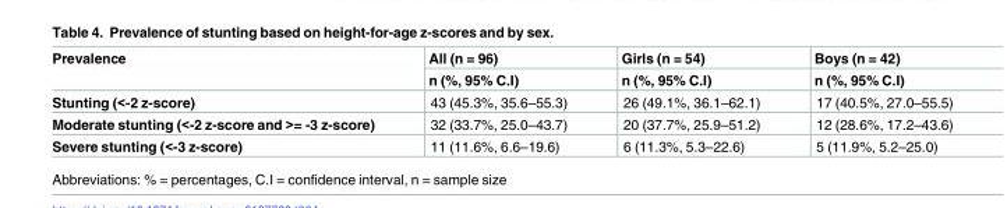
<table><thead><tr><td rowspan="2">Prevalence</td><td rowspan="2">All (n = 96) n (%, 95% C.I)</td><td rowspan="2">Girls (n = 54) n (%, 95% C.I)</td><td rowspan="2">Boys (n = 42) n (%, 95% C.I)</td></tr><tr></tr></thead><tbody><tr><td>Stunting (&lt;-2 z-score)</td><td>43 (45.3%, 35.6–55.3)</td><td>26 (49.1%, 36.1–62.1)</td><td>17 (40.5%, 27.0–55.5)</td></tr><tr><td>Moderate stunting (&lt;-2 z-score and &gt;= -3 z-score)</td><td>32 (33.7%, 25.0–43.7)</td><td>20 (37.7%, 25.9–51.2)</td><td>12 (28.6%, 17.2–43.6)</td></tr><tr><td>Severe stunting (&lt;-3 z-score)</td><td>11 (11.6%, 6.6–19.6)</td><td>6 (11.3%, 5.3–22.6)</td><td>5 (11.9%, 5.2–25.0)</td></tr></tbody></table>